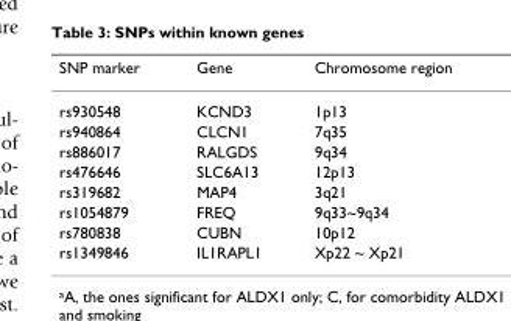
<table><thead><tr><td>SNP marker</td><td>Gene</td><td>Chromosome region</td></tr></thead><tbody><tr><td>rs930548</td><td>KCND3</td><td>1p13</td></tr><tr><td>rs940864</td><td>CLCN1</td><td>7q35</td></tr><tr><td>rs886017</td><td>RALGDS</td><td>9q34</td></tr><tr><td>rs476646</td><td>SLC6A13</td><td>12p13</td></tr><tr><td>rs319682</td><td>MAP4</td><td>3q21</td></tr><tr><td>rs1054879</td><td>FREQ</td><td>9q33~9q34</td></tr><tr><td>rs780838</td><td>CUBN</td><td>10p12</td></tr><tr><td>rs1349846</td><td>IL1RAPL1</td><td>Xp22 ~ Xp21</td></tr></tbody></table>